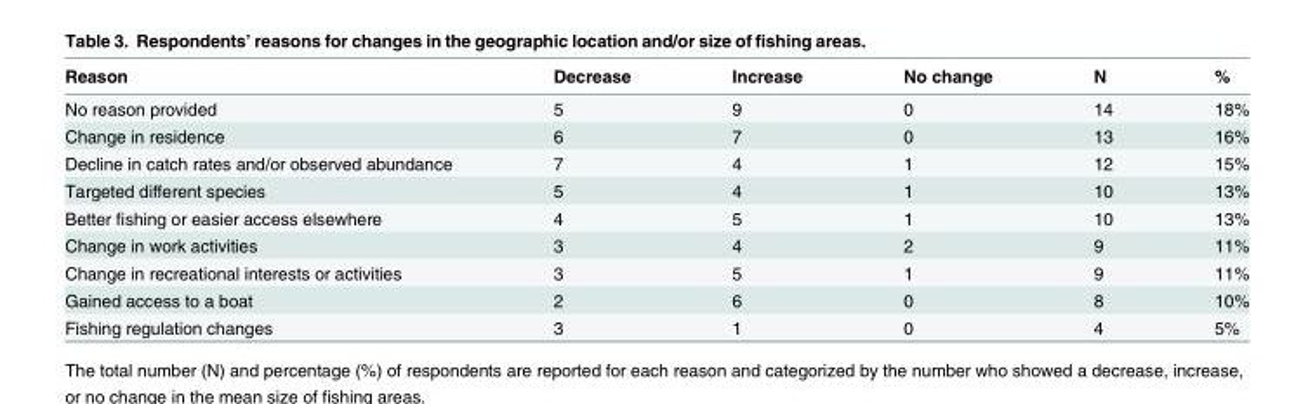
<table><thead><tr><td>Reason</td><td>Decrease</td><td>Increase</td><td>No change</td><td>N</td><td>%</td></tr></thead><tbody><tr><td>No reason provided</td><td>5</td><td>9</td><td>0</td><td>14</td><td>18%</td></tr><tr><td>Change in residence</td><td>6</td><td>7</td><td>0</td><td>13</td><td>16%</td></tr><tr><td>Decline in catch rates and/or observed abundance</td><td>7</td><td>4</td><td>1</td><td>12</td><td>15%</td></tr><tr><td>Targeted different species</td><td>5</td><td>4</td><td>1</td><td>10</td><td>13%</td></tr><tr><td>Better fishing or easier access elsewhere</td><td>4</td><td>5</td><td>1</td><td>10</td><td>13%</td></tr><tr><td>Change in work activities</td><td>3</td><td>4</td><td>2</td><td>9</td><td>11%</td></tr><tr><td>Change in recreational interests or activities</td><td>3</td><td>5</td><td>1</td><td>9</td><td>11%</td></tr><tr><td>Gained access to a boat</td><td>2</td><td>6</td><td>0</td><td>8</td><td>10%</td></tr><tr><td>Fishing regulation changes</td><td>3</td><td>1</td><td>0</td><td>4</td><td>5%</td></tr></tbody></table>